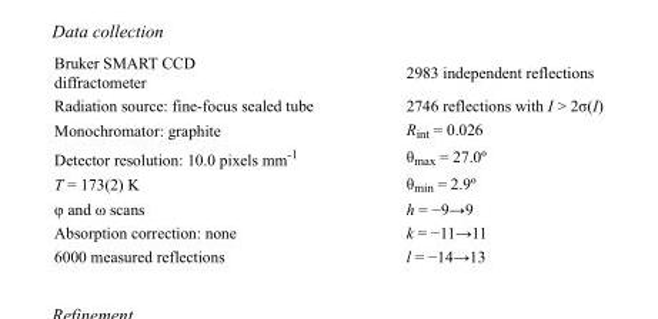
<table><tbody><tr><td>Bruker SMART CCD diffractometer</td><td>2983 independent reflections</td></tr><tr><td>Radiation source: fine-focus sealed tube</td><td>2746 reflections with I &gt; 2σ(I)</td></tr><tr><td>Monochromator: graphite</td><td>R<sub>int</sub> = 0.026</td></tr><tr><td>Detector resolution: 10.0 pixels mm<sup>-1</sup></td><td>θ<sub>max</sub> = 27.0º</td></tr><tr><td>T = 173(2) K</td><td>θ<sub>min</sub> = 2.9º</td></tr><tr><td>φ and ω scans</td><td>h = −9→9</td></tr><tr><td>Absorption correction: none</td><td>k = −11→11</td></tr><tr><td>6000 measured reflections</td><td>l = −14→13</td></tr></tbody></table>